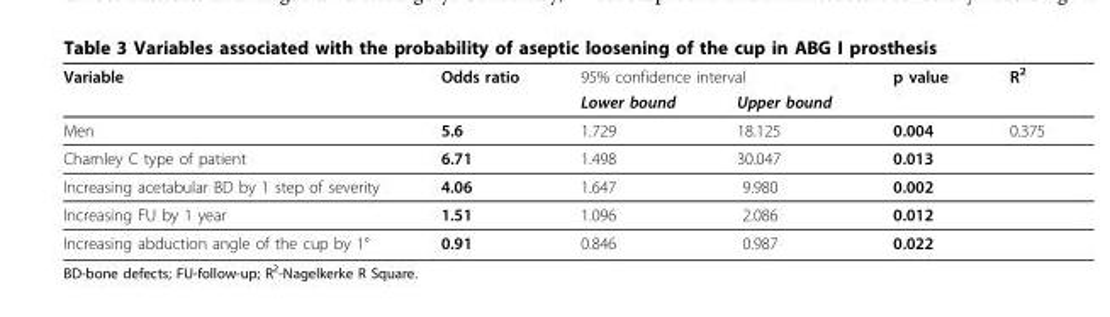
<table><thead><tr><td rowspan="2">Variable</td><td rowspan="2">Odds ratio</td><td colspan="2">95% confidence interval</td><td rowspan="2">p value</td><td rowspan="2">R<sup>2</sup></td></tr><tr><td>Lower bound</td><td>Upper bound</td></tr></thead><tbody><tr><td>Men</td><td>5.6</td><td>1.729</td><td>18.125</td><td>0.004</td><td>0.375</td></tr><tr><td>Charnley C type of patient</td><td>6.71</td><td>1.498</td><td>30.047</td><td>0.013</td><td></td></tr><tr><td>Increasing acetabular BD by 1 step of severity</td><td>4.06</td><td>1.647</td><td>9.980</td><td>0.002</td><td></td></tr><tr><td>Increasing FU by 1 year</td><td>1.51</td><td>1.096</td><td>2.086</td><td>0.012</td><td></td></tr><tr><td>Increasing abduction angle of the cup by 1°</td><td>0.91</td><td>0.846</td><td>0.987</td><td>0.022</td><td></td></tr></tbody></table>